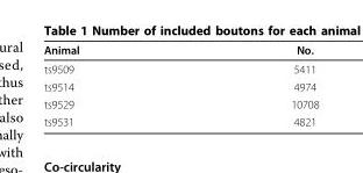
<table><thead><tr><td>Animal</td><td>No.</td></tr></thead><tbody><tr><td>ts9509</td><td>5411</td></tr><tr><td>ts9514</td><td>4974</td></tr><tr><td>ts9529</td><td>10708</td></tr><tr><td>ts9531</td><td>4821</td></tr></tbody></table>